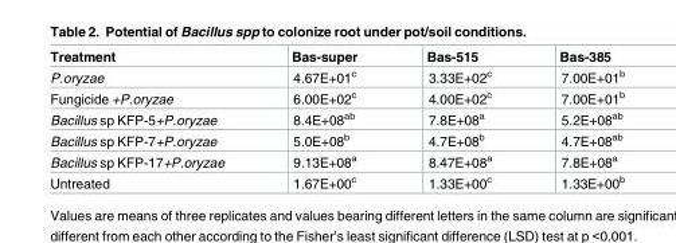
<table><thead><tr><td>Treatment</td><td>Bas-super</td><td>Bas-515</td><td>Bas-385</td></tr></thead><tbody><tr><td>P.oryzae</td><td>4.67E+01<sup>c</sup></td><td>3.33E+02<sup>c</sup></td><td>7.00E+01<sup>b</sup></td></tr><tr><td>Fungicide +P.oryzae</td><td>6.00E+02<sup>c</sup></td><td>4.00E+02<sup>c</sup></td><td>7.00E+01<sup>b</sup></td></tr><tr><td>Bacillus sp KFP-5+P.oryzae</td><td>8.4E+08<sup>ab</sup></td><td>7.8E+08<sup>a</sup></td><td>5.2E+08<sup>ab</sup></td></tr><tr><td>Bacillus sp KFP-7+P.oryzae</td><td>5.0E+08<sup>b</sup></td><td>4.7E+08<sup>b</sup></td><td>4.7E+08<sup>ab</sup></td></tr><tr><td>Bacillus sp KFP-17+P.oryzae</td><td>9.13E+08<sup>a</sup></td><td>8.47E+08<sup>a</sup></td><td>7.8E+08<sup>a</sup></td></tr><tr><td>Untreated</td><td>1.67E+00<sup>c</sup></td><td>1.33E+00<sup>c</sup></td><td>1.33E+00<sup>b</sup></td></tr></tbody></table>